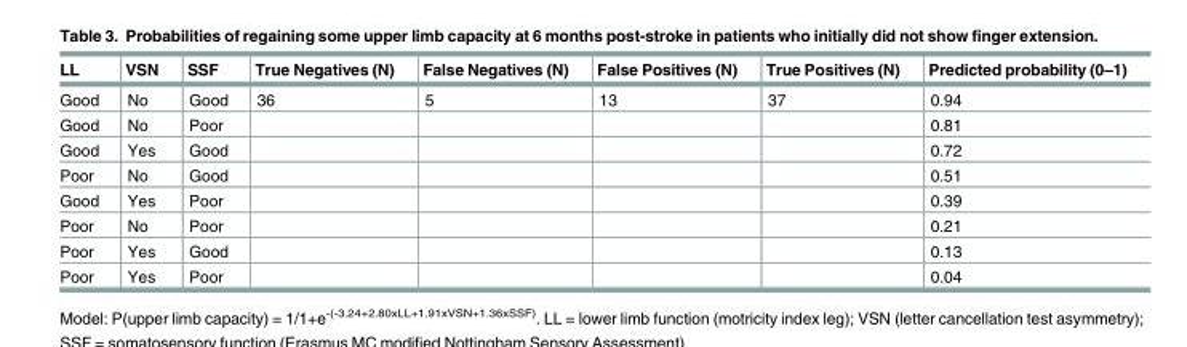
<table><thead><tr><td>LL</td><td>VSN</td><td>SSF</td><td>True Negatives (N)</td><td>False Negatives (N)</td><td>False Positives (N)</td><td>True Positives (N)</td><td>Predicted probability (0–1)</td></tr></thead><tbody><tr><td>Good</td><td>No</td><td>Good</td><td>36</td><td>5</td><td>13</td><td>37</td><td>0.94</td></tr><tr><td>Good</td><td>No</td><td>Poor</td><td></td><td></td><td></td><td></td><td>0.81</td></tr><tr><td>Good</td><td>Yes</td><td>Good</td><td></td><td></td><td></td><td></td><td>0.72</td></tr><tr><td>Poor</td><td>No</td><td>Good</td><td></td><td></td><td></td><td></td><td>0.51</td></tr><tr><td>Good</td><td>Yes</td><td>Poor</td><td></td><td></td><td></td><td></td><td>0.39</td></tr><tr><td>Poor</td><td>No</td><td>Poor</td><td></td><td></td><td></td><td></td><td>0.21</td></tr><tr><td>Poor</td><td>Yes</td><td>Good</td><td></td><td></td><td></td><td></td><td>0.13</td></tr><tr><td>Poor</td><td>Yes</td><td>Poor</td><td></td><td></td><td></td><td></td><td>0.04</td></tr></tbody></table>